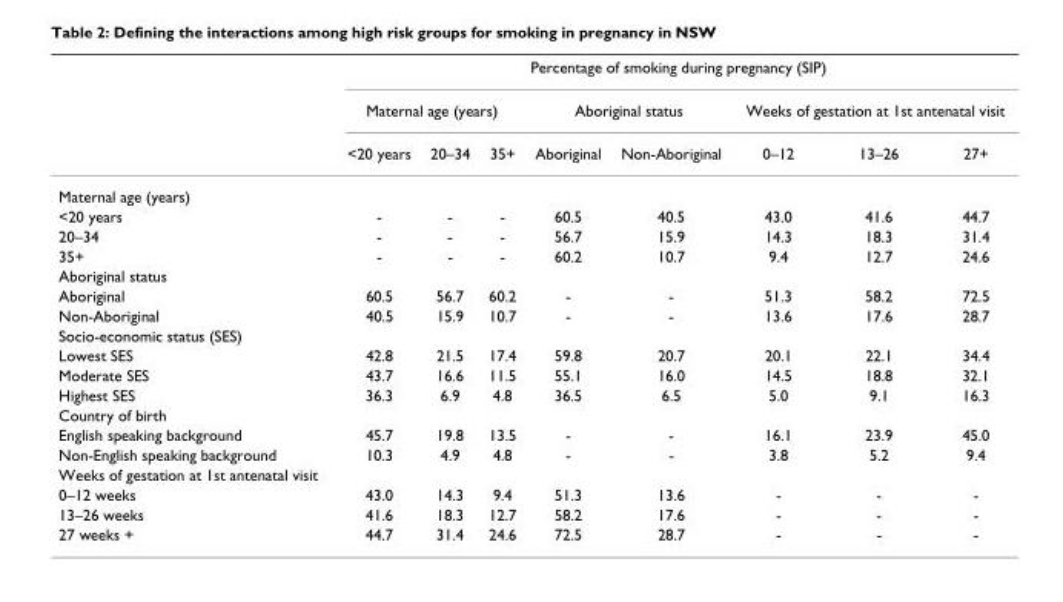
<table><thead><tr><td rowspan="3"></td><td colspan="8">Percentage of smoking during pregnancy (SIP)</td></tr><tr><td colspan="3">Maternal age (years)</td><td colspan="2">Aboriginal status</td><td colspan="3">Weeks of gestation at 1st antenatal visit</td></tr><tr><td>&lt;20 years</td><td>20–34</td><td>35+</td><td>Aboriginal</td><td>Non-Aboriginal</td><td>0–12</td><td>13–26</td><td>27+</td></tr></thead><tbody><tr><td colspan="9">Maternal age (years)</td></tr><tr><td>&lt;20 years</td><td>-</td><td>-</td><td>-</td><td>60.5</td><td>40.5</td><td>43.0</td><td>41.6</td><td>44.7</td></tr><tr><td>20–34</td><td>-</td><td>-</td><td>-</td><td>56.7</td><td>15.9</td><td>14.3</td><td>18.3</td><td>31.4</td></tr><tr><td>35+</td><td>-</td><td>-</td><td>-</td><td>60.2</td><td>10.7</td><td>9.4</td><td>12.7</td><td>24.6</td></tr><tr><td colspan="9">Aboriginal status</td></tr><tr><td>Aboriginal</td><td>60.5</td><td>56.7</td><td>60.2</td><td>-</td><td>-</td><td>51.3</td><td>58.2</td><td>72.5</td></tr><tr><td>Non-Aboriginal</td><td>40.5</td><td>15.9</td><td>10.7</td><td>-</td><td>-</td><td>13.6</td><td>17.6</td><td>28.7</td></tr><tr><td colspan="9">Socio-economic status (SES)</td></tr><tr><td>Lowest SES</td><td>42.8</td><td>21.5</td><td>17.4</td><td>59.8</td><td>20.7</td><td>20.1</td><td>22.1</td><td>34.4</td></tr><tr><td>Moderate SES</td><td>43.7</td><td>16.6</td><td>11.5</td><td>55.1</td><td>16.0</td><td>14.5</td><td>18.8</td><td>32.1</td></tr><tr><td>Highest SES</td><td>36.3</td><td>6.9</td><td>4.8</td><td>36.5</td><td>6.5</td><td>5.0</td><td>9.1</td><td>16.3</td></tr><tr><td colspan="9">Country of birth</td></tr><tr><td>English speaking background</td><td>45.7</td><td>19.8</td><td>13.5</td><td>-</td><td>-</td><td>16.1</td><td>23.9</td><td>45.0</td></tr><tr><td>Non-English speaking background</td><td>10.3</td><td>4.9</td><td>4.8</td><td>-</td><td>-</td><td>3.8</td><td>5.2</td><td>9.4</td></tr><tr><td colspan="9">Weeks of gestation at 1st antenatal visit</td></tr><tr><td>0–12 weeks</td><td>43.0</td><td>14.3</td><td>9.4</td><td>51.3</td><td>13.6</td><td>-</td><td>-</td><td>-</td></tr><tr><td>13–26 weeks</td><td>41.6</td><td>18.3</td><td>12.7</td><td>58.2</td><td>17.6</td><td>-</td><td>-</td><td>-</td></tr><tr><td>27 weeks +</td><td>44.7</td><td>31.4</td><td>24.6</td><td>72.5</td><td>28.7</td><td>-</td><td>-</td><td>-</td></tr></tbody></table>